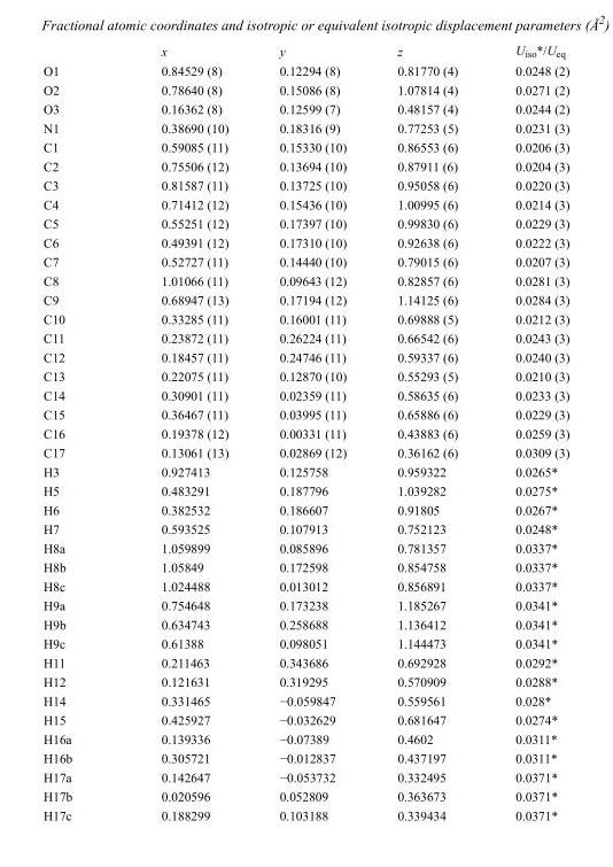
<table><thead><tr><td></td><td>x</td><td>y</td><td>z</td><td>U<sub>iso</sub>*/U<sub>eq</sub></td></tr></thead><tbody><tr><td>O1</td><td>0.84529 (8)</td><td>0.12294 (8)</td><td>0.81770 (4)</td><td>0.0248 (2)</td></tr><tr><td>O2</td><td>0.78640 (8)</td><td>0.15086 (8)</td><td>1.07814 (4)</td><td>0.0271 (2)</td></tr><tr><td>O3</td><td>0.16362 (8)</td><td>0.12599 (7)</td><td>0.48157 (4)</td><td>0.0244 (2)</td></tr><tr><td>N1</td><td>0.38690 (10)</td><td>0.18316 (9)</td><td>0.77253 (5)</td><td>0.0231 (3)</td></tr><tr><td>C1</td><td>0.59085 (11)</td><td>0.15330 (10)</td><td>0.86553 (6)</td><td>0.0206 (3)</td></tr><tr><td>C2</td><td>0.75506 (12)</td><td>0.13694 (10)</td><td>0.87911 (6)</td><td>0.0204 (3)</td></tr><tr><td>C3</td><td>0.81587 (11)</td><td>0.13725 (10)</td><td>0.95058 (6)</td><td>0.0220 (3)</td></tr><tr><td>C4</td><td>0.71412 (12)</td><td>0.15436 (10)</td><td>1.00995 (6)</td><td>0.0214 (3)</td></tr><tr><td>C5</td><td>0.55251 (12)</td><td>0.17397 (10)</td><td>0.99830 (6)</td><td>0.0229 (3)</td></tr><tr><td>C6</td><td>0.49391 (12)</td><td>0.17310 (10)</td><td>0.92638 (6)</td><td>0.0222 (3)</td></tr><tr><td>C7</td><td>0.52727 (11)</td><td>0.14440 (10)</td><td>0.79015 (6)</td><td>0.0207 (3)</td></tr><tr><td>C8</td><td>1.01066 (11)</td><td>0.09643 (12)</td><td>0.82857 (6)</td><td>0.0281 (3)</td></tr><tr><td>C9</td><td>0.68947 (13)</td><td>0.17194 (12)</td><td>1.14125 (6)</td><td>0.0284 (3)</td></tr><tr><td>C10</td><td>0.33285 (11)</td><td>0.16001 (11)</td><td>0.69888 (5)</td><td>0.0212 (3)</td></tr><tr><td>C11</td><td>0.23872 (11)</td><td>0.26224 (11)</td><td>0.66542 (6)</td><td>0.0243 (3)</td></tr><tr><td>C12</td><td>0.18457 (11)</td><td>0.24746 (11)</td><td>0.59337 (6)</td><td>0.0240 (3)</td></tr><tr><td>C13</td><td>0.22075 (11)</td><td>0.12870 (10)</td><td>0.55293 (5)</td><td>0.0210 (3)</td></tr><tr><td>C14</td><td>0.30901 (11)</td><td>0.02359 (11)</td><td>0.58635 (6)</td><td>0.0233 (3)</td></tr><tr><td>C15</td><td>0.36467 (11)</td><td>0.03995 (11)</td><td>0.65886 (6)</td><td>0.0229 (3)</td></tr><tr><td>C16</td><td>0.19378 (12)</td><td>0.00331 (11)</td><td>0.43883 (6)</td><td>0.0259 (3)</td></tr><tr><td>C17</td><td>0.13061 (13)</td><td>0.02869 (12)</td><td>0.36162 (6)</td><td>0.0309 (3)</td></tr><tr><td>H3</td><td>0.927413</td><td>0.125758</td><td>0.959322</td><td>0.0265*</td></tr><tr><td>H5</td><td>0.483291</td><td>0.187796</td><td>1.039282</td><td>0.0275*</td></tr><tr><td>H6</td><td>0.382532</td><td>0.186607</td><td>0.91805</td><td>0.0267*</td></tr><tr><td>H7</td><td>0.593525</td><td>0.107913</td><td>0.752123</td><td>0.0248*</td></tr><tr><td>H8a</td><td>1.059899</td><td>0.085896</td><td>0.781357</td><td>0.0337*</td></tr><tr><td>H8b</td><td>1.05849</td><td>0.172598</td><td>0.854758</td><td>0.0337*</td></tr><tr><td>H8c</td><td>1.024488</td><td>0.013012</td><td>0.856891</td><td>0.0337*</td></tr><tr><td>H9a</td><td>0.754648</td><td>0.173238</td><td>1.185267</td><td>0.0341*</td></tr><tr><td>H9b</td><td>0.634743</td><td>0.258688</td><td>1.136412</td><td>0.0341*</td></tr><tr><td>H9c</td><td>0.61388</td><td>0.098051</td><td>1.144473</td><td>0.0341*</td></tr><tr><td>H11</td><td>0.211463</td><td>0.343686</td><td>0.692928</td><td>0.0292*</td></tr><tr><td>H12</td><td>0.121631</td><td>0.319295</td><td>0.570909</td><td>0.0288*</td></tr><tr><td>H14</td><td>0.331465</td><td>−0.059847</td><td>0.559561</td><td>0.028*</td></tr><tr><td>H15</td><td>0.425927</td><td>−0.032629</td><td>0.681647</td><td>0.0274*</td></tr><tr><td>H16a</td><td>0.139336</td><td>−0.07389</td><td>0.4602</td><td>0.0311*</td></tr><tr><td>H16b</td><td>0.305721</td><td>−0.012837</td><td>0.437197</td><td>0.0311*</td></tr><tr><td>H17a</td><td>0.142647</td><td>−0.053732</td><td>0.332495</td><td>0.0371*</td></tr><tr><td>H17b</td><td>0.020596</td><td>0.052809</td><td>0.363673</td><td>0.0371*</td></tr><tr><td>H17c</td><td>0.188299</td><td>0.103188</td><td>0.339434</td><td>0.0371*</td></tr></tbody></table>